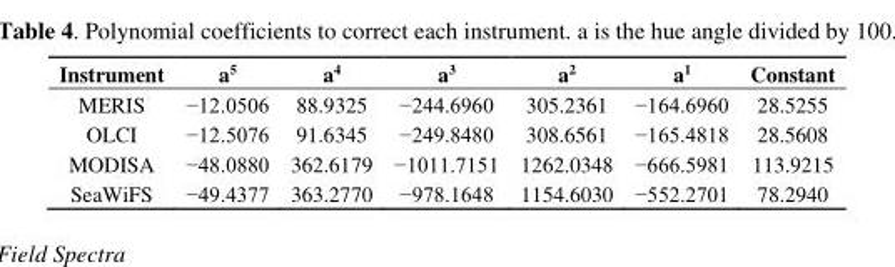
<table><thead><tr><td>Instrument</td><td>a<sup>5</sup></td><td>a<sup>4</sup></td><td>a<sup>3</sup></td><td>a<sup>2</sup></td><td>a<sup>1</sup></td><td>Constant</td></tr></thead><tbody><tr><td>MERIS</td><td>−12.0506</td><td>88.9325</td><td>−244.6960</td><td>305.2361</td><td>−164.6960</td><td>28.5255</td></tr><tr><td>OLCI</td><td>−12.5076</td><td>91.6345</td><td>−249.8480</td><td>308.6561</td><td>−165.4818</td><td>28.5608</td></tr><tr><td>MODISA</td><td>−48.0880</td><td>362.6179</td><td>−1011.7151</td><td>1262.0348</td><td>−666.5981</td><td>113.9215</td></tr><tr><td>SeaWiFS</td><td>−49.4377</td><td>363.2770</td><td>−978.1648</td><td>1154.6030</td><td>−552.2701</td><td>78.2940</td></tr></tbody></table>